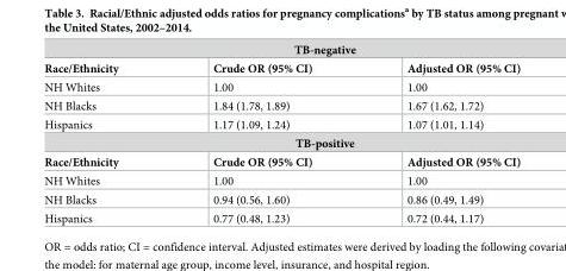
<table><tbody><tr><td colspan="3">TB-negative</td></tr><tr><td>Race/Ethnicity</td><td>Crude OR (95% CI)</td><td>Adjusted OR (95% CI)</td></tr><tr><td>NH Whites</td><td>1.00</td><td>1.00</td></tr><tr><td>NH Blacks</td><td>1.84 (1.78, 1.89)</td><td>1.67 (1.62, 1.72)</td></tr><tr><td>Hispanics</td><td>1.17 (1.09, 1.24)</td><td>1.07 (1.01, 1.14)</td></tr><tr><td colspan="3">TB-positive</td></tr><tr><td>Race/Ethnicity</td><td>Crude OR (95% CI)</td><td>Adjusted OR (95% CI)</td></tr><tr><td>NH Whites</td><td>1.00</td><td>1.00</td></tr><tr><td>NH Blacks</td><td>0.94 (0.56, 1.60)</td><td>0.86 (0.49, 1.49)</td></tr><tr><td>Hispanics</td><td>0.77 (0.48, 1.23)</td><td>0.72 (0.44, 1.17)</td></tr></tbody></table>